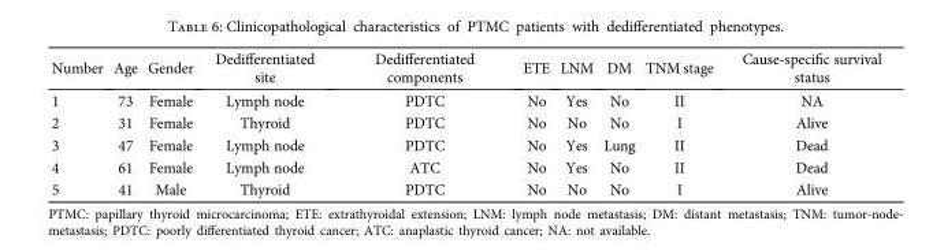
<table><thead><tr><td>Number</td><td>Age</td><td>Gender</td><td>Dedifferentiated site</td><td>Dedifferentiated components</td><td>ETE</td><td>LNM</td><td>DM</td><td>TNM stage</td><td>Cause-specific survival status</td></tr></thead><tbody><tr><td>1</td><td>73</td><td>Female</td><td>Lymph node</td><td>PDTC</td><td>No</td><td>Yes</td><td>No</td><td>II</td><td>NA</td></tr><tr><td>2</td><td>31</td><td>Female</td><td>Thyroid</td><td>PDTC</td><td>No</td><td>No</td><td>No</td><td>I</td><td>Alive</td></tr><tr><td>3</td><td>47</td><td>Female</td><td>Lymph node</td><td>PDTC</td><td>No</td><td>Yes</td><td>Lung</td><td>II</td><td>Dead</td></tr><tr><td>4</td><td>61</td><td>Female</td><td>Lymph node</td><td>ATC</td><td>No</td><td>Yes</td><td>No</td><td>II</td><td>Dead</td></tr><tr><td>5</td><td>41</td><td>Male</td><td>Thyroid</td><td>PDTC</td><td>No</td><td>No</td><td>No</td><td>I</td><td>Alive</td></tr></tbody></table>